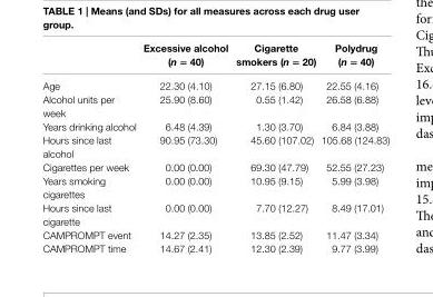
<table><thead><tr><td></td><td>excessive alcohol (n = 40)</td><td>cigarette smokers (n = 20)</td><td>Polydrug (n = 40)</td></tr></thead><tbody><tr><td>Age</td><td>22.30 (4.10)</td><td>27.15 (6.80)</td><td>22.55 (4.16)</td></tr><tr><td>Alcohol units per week</td><td>25.90 (8.60)</td><td>0.55 (1.42)</td><td>26.58 (6.88)</td></tr><tr><td>Years drinking alcohol</td><td>6.48 (4.39)</td><td>1.30 (3.70)</td><td>6.84 (3.88)</td></tr><tr><td>Hours since last alcohol</td><td>90.95 (73.30)</td><td>45.60 (107.02)</td><td>105.68 (124.83)</td></tr><tr><td>Cigarettes per week</td><td>0.00 (0.00)</td><td>69.30 (47.79)</td><td>52.55 (27.23)</td></tr><tr><td>Years smoking cigarettes</td><td>0.00 (0.00)</td><td>10.95 (9.15)</td><td>5.99 (3.98)</td></tr><tr><td>Hours since last cigarette</td><td>0.00 (0.00)</td><td>7.70 (12.27)</td><td>8.49 (17.01)</td></tr><tr><td>CAMPROMPT event</td><td>14.27 (2.35)</td><td>13.85 (2.52)</td><td>11.47 (3.34)</td></tr><tr><td>CAMPROMPT time</td><td>14.67 (2.41)</td><td>12.30 (2.39)</td><td>9.77 (3.99)</td></tr></tbody></table>